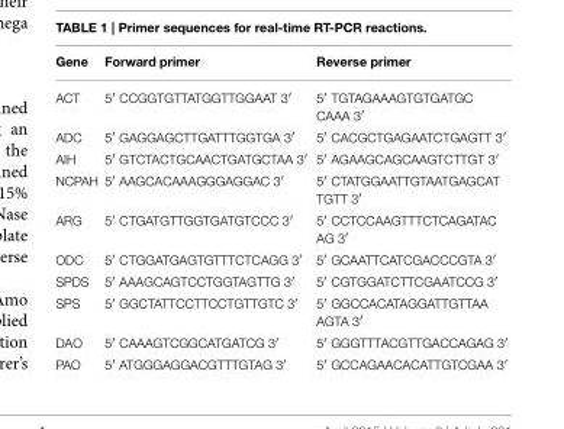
<table><thead><tr><td>Gene</td><td>Forward primer</td><td>Reverse primer</td></tr></thead><tbody><tr><td>ACT</td><td>5′ CCGGTGTTATGGTTGGAAT 3′</td><td>5′ TGTAGAAAGTGTGATGC CAAA 3′</td></tr><tr><td>ADC</td><td>5′ GAGGAGCTTGATTTGGTGA 3′</td><td>5′ CACGCTGAGAATCTGAGTT 3′</td></tr><tr><td>AIH</td><td>5′ GTCTACTGCAACTGATGCTAA 3′</td><td>5′ AGAAGCAGCAAGTCTTGT 3′</td></tr><tr><td>NCPAH</td><td>5′ AAGCACAAAGGGAGGAC 3′</td><td>5′ CTATGGAATTGTAATGAGCAT TGTT 3′</td></tr><tr><td>ARG</td><td>5′ CTGATGTTGGTGATGTCCC 3′</td><td>5′ CCTCCAAGTTTCTCAGATAC AG 3′</td></tr><tr><td>ODC</td><td>5′ CTGGATGAGTGTTTCTCAGG 3′</td><td>5′ GCAATTCATCGACCCGTA 3′</td></tr><tr><td>SPDS</td><td>5′ AAAGCAGTCCTGGTAGTTG 3′</td><td>5′ CGTGGATCTTCGAATCCG 3′</td></tr><tr><td>SPS</td><td>5′ GGCTATTCCTTCCTGTTGTC 3′</td><td>5′ GGCCACATAGGATTGTTAA AGTA 3′</td></tr><tr><td>DAO</td><td>5′ CAAAGTCGGCATGATCG 3′</td><td>5′ GGGTTTACGTTGACCAGAG 3′</td></tr><tr><td>PAO</td><td>5′ ATGGGAGGACGTTTGTAG 3′</td><td>5′ GCCAGAACACATTGTCGAA 3′</td></tr></tbody></table>